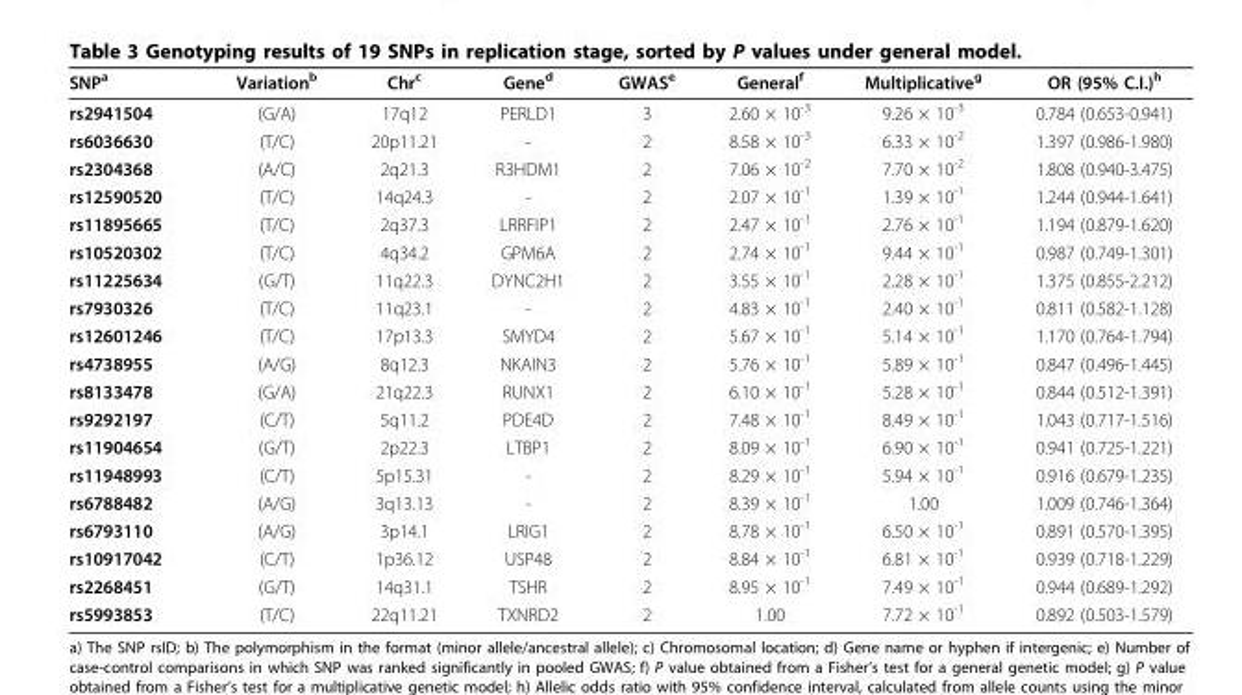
<table><thead><tr><td>SNP<sup>a</sup></td><td>Variation<sup>b</sup></td><td>Chr<sup>c</sup></td><td>Gene<sup>d</sup></td><td>GWAS<sup>e</sup></td><td>General<sup>f</sup></td><td>Multiplicative<sup>g</sup></td><td>OR (95% C.I.)<sup>h</sup></td></tr></thead><tbody><tr><td>rs2941504</td><td>(G/A)</td><td>17q12</td><td>PERLD1</td><td>3</td><td>2.60 × 10<sup>-3</sup></td><td>9.26 × 10<sup>-3</sup></td><td>0.784 (0.653-0.941)</td></tr><tr><td>rs6036630</td><td>(T/C)</td><td>20p11.21</td><td>-</td><td>2</td><td>8.58 × 10<sup>-3</sup></td><td>6.33 × 10<sup>-2</sup></td><td>1.397 (0.986-1.980)</td></tr><tr><td>rs2304368</td><td>(A/C)</td><td>2q21.3</td><td>R3HDM1</td><td>2</td><td>7.06 × 10<sup>-2</sup></td><td>7.70 × 10<sup>-2</sup></td><td>1.808 (0.940-3.475)</td></tr><tr><td>rs12590520</td><td>(T/C)</td><td>14q24.3</td><td>-</td><td>2</td><td>2.07 × 10<sup>-1</sup></td><td>1.39 × 10<sup>-1</sup></td><td>1.244 (0.944-1.641)</td></tr><tr><td>rs11895665</td><td>(T/C)</td><td>2q37.3</td><td>LRRFIP1</td><td>2</td><td>2.47 × 10<sup>-1</sup></td><td>2.76 × 10<sup>-1</sup></td><td>1.194 (0.879-1.620)</td></tr><tr><td>rs10520302</td><td>(T/C)</td><td>4q34.2</td><td>GPM6A</td><td>2</td><td>2.74 × 10<sup>-1</sup></td><td>9.44 × 10<sup>-1</sup></td><td>0.987 (0.749-1.301)</td></tr><tr><td>rs11225634</td><td>(G/T)</td><td>11q22.3</td><td>DYNC2H1</td><td>2</td><td>3.55 × 10<sup>-1</sup></td><td>2.28 × 10<sup>-1</sup></td><td>1.375 (0.855-2.212)</td></tr><tr><td>rs7930326</td><td>(T/C)</td><td>11q23.1</td><td>-</td><td>2</td><td>4.83 × 10<sup>-1</sup></td><td>2.40 × 10<sup>-1</sup></td><td>0.811 (0.582-1.128)</td></tr><tr><td>rs12601246</td><td>(T/C)</td><td>17p13.3</td><td>SMYD4</td><td>2</td><td>5.67 × 10<sup>-1</sup></td><td>5.14 × 10<sup>-1</sup></td><td>1.170 (0.764-1.794)</td></tr><tr><td>rs4738955</td><td>(A/G)</td><td>8q12.3</td><td>NKAIN3</td><td>2</td><td>5.76 × 10<sup>-1</sup></td><td>5.89 × 10<sup>-1</sup></td><td>0.847 (0.496-1.445)</td></tr><tr><td>rs8133478</td><td>(G/A)</td><td>21q22.3</td><td>RUNX1</td><td>2</td><td>6.10 × 10<sup>-1</sup></td><td>5.28 × 10<sup>-1</sup></td><td>0.844 (0.512-1.391)</td></tr><tr><td>rs9292197</td><td>(C/T)</td><td>5q11.2</td><td>PDE4D</td><td>2</td><td>7.48 × 10<sup>-1</sup></td><td>8.49 × 10<sup>-1</sup></td><td>1.043 (0.717-1.516)</td></tr><tr><td>rs11904654</td><td>(G/T)</td><td>2p22.3</td><td>LTBP1</td><td>2</td><td>8.09 × 10<sup>-1</sup></td><td>6.90 × 10<sup>-1</sup></td><td>0.941 (0.725-1.221)</td></tr><tr><td>rs11948993</td><td>(C/T)</td><td>5p15.31</td><td>-</td><td>2</td><td>8.29 × 10<sup>-1</sup></td><td>5.94 × 10<sup>-1</sup></td><td>0.916 (0.679-1.235)</td></tr><tr><td>rs6788482</td><td>(A/G)</td><td>3q13.13</td><td>-</td><td>2</td><td>8.39 × 10<sup>-1</sup></td><td>1.00</td><td>1.009 (0.746-1.364)</td></tr><tr><td>rs6793110</td><td>(A/G)</td><td>3p14.1</td><td>LRIG1</td><td>2</td><td>8.78 × 10<sup>-1</sup></td><td>6.50 × 10<sup>-1</sup></td><td>0.891 (0.570-1.395)</td></tr><tr><td>rs10917042</td><td>(C/T)</td><td>1p36.12</td><td>USP48</td><td>2</td><td>8.84 × 10<sup>-1</sup></td><td>6.81 × 10<sup>-1</sup></td><td>0.939 (0.718-1.229)</td></tr><tr><td>rs2268451</td><td>(G/T)</td><td>14q31.1</td><td>TSHR</td><td>2</td><td>8.95 × 10<sup>-1</sup></td><td>7.49 × 10<sup>-1</sup></td><td>0.944 (0.689-1.292)</td></tr><tr><td>rs5993853</td><td>(T/C)</td><td>22q11.21</td><td>TXNRD2</td><td>2</td><td>1.00</td><td>7.72 × 10<sup>-1</sup></td><td>0.892 (0.503-1.579)</td></tr></tbody></table>